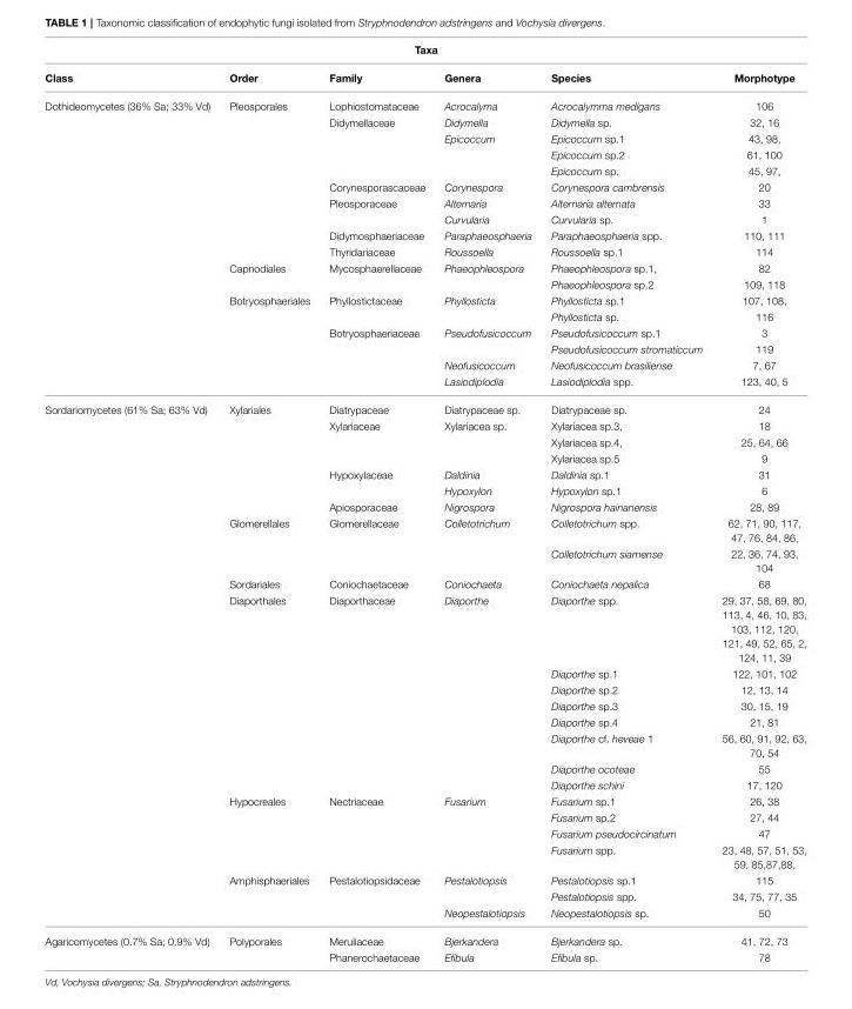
<table><thead><tr><td colspan="6">Taxa</td></tr><tr><td>Class</td><td>Order</td><td>Family</td><td>Genera</td><td>Species</td><td>Morphotype</td></tr></thead><tbody><tr><td rowspan="18">Dothideomycetes (36% Sa; 33% Vd)</td><td>Pleosporales</td><td>Lophiostomataceae</td><td>Acrocalyma</td><td>Acrocalymma medigans</td><td>106</td></tr><tr><td></td><td>Didymellaceae</td><td>Didymella</td><td>Didymella sp.</td><td>32, 16</td></tr><tr><td></td><td></td><td>Epicoccum</td><td>Epicoccum sp.1</td><td>43, 98,</td></tr><tr><td></td><td></td><td></td><td>Epicoccum sp.2</td><td>61, 100</td></tr><tr><td></td><td></td><td></td><td>Epicoccum sp.</td><td>45, 97,</td></tr><tr><td></td><td>Corynesporascaceae</td><td>Corynespora</td><td>Corynespora cambrensis</td><td>20</td></tr><tr><td></td><td>Pleosporaceae</td><td>Alternaria</td><td>Alternaria alternata</td><td>33</td></tr><tr><td></td><td></td><td>Curvularia</td><td>Curvularia sp.</td><td>1</td></tr><tr><td></td><td>Didymosphaeriaceae</td><td>Paraphaeosphaeria</td><td>Paraphaeosphaeria spp.</td><td>110, 111</td></tr><tr><td></td><td>Thyridariaceae</td><td>Roussoella</td><td>Roussoella sp.1</td><td>114</td></tr><tr><td>Capnodiales</td><td>Mycosphaerellaceae</td><td>Phaeophleospora</td><td>Phaeophleospora sp.1,</td><td>82</td></tr><tr><td></td><td></td><td></td><td>Phaeophleospora sp.2</td><td>109, 118</td></tr><tr><td>Botryosphaeriales</td><td>Phyllostictaceae</td><td>Phyllosticta</td><td>Phyllosticta sp.1</td><td>107, 108,</td></tr><tr><td></td><td></td><td></td><td>Phyllosticta sp.</td><td>116</td></tr><tr><td></td><td>Botryosphaeriaceae</td><td>Pseudofusicoccum</td><td>Pseudofusicoccum sp.1</td><td>3</td></tr><tr><td></td><td></td><td></td><td>Pseudofusicoccum stromaticcum</td><td>119</td></tr><tr><td></td><td></td><td>Neofusicoccum</td><td>Neofusicoccum brasiliense</td><td>7, 67</td></tr><tr><td></td><td></td><td>Lasiodiplodia</td><td>Lasiodiplodia spp.</td><td>123, 40, 5</td></tr><tr><td rowspan="25">Sordariomycetes (61% Sa; 63% Vd)</td><td>Xylariales</td><td>Diatrypaceae</td><td>Diatrypaceae sp.</td><td>Diatrypaceae sp.</td><td>24</td></tr><tr><td></td><td>Xylariaceae</td><td>Xylariacea sp.</td><td>Xylariacea sp.3,</td><td>18</td></tr><tr><td></td><td></td><td></td><td>Xylariacea sp.4,</td><td>25, 64, 66</td></tr><tr><td></td><td></td><td></td><td>Xylariacea sp.5</td><td>9</td></tr><tr><td></td><td>Hypoxylaceae</td><td>Daldinia</td><td>Daldinia sp.1</td><td>31</td></tr><tr><td></td><td></td><td>Hypoxylon</td><td>Hypoxylon sp.1</td><td>6</td></tr><tr><td></td><td>Apiosporaceae</td><td>Nigrospora</td><td>Nigrospora hainanensis</td><td>28, 89</td></tr><tr><td>Glomerellales</td><td>Glomerellaceae</td><td>Colletotrichum</td><td>Colletotrichum spp.</td><td>62, 71, 90, 117, 47, 76, 84, 86,</td></tr><tr><td></td><td></td><td></td><td>Colletotrichum siamense</td><td>22, 36, 74, 93, 104</td></tr><tr><td>Sordariales</td><td>Coniochaetaceae</td><td>Coniochaeta</td><td>Coniochaeta nepalica</td><td>68</td></tr><tr><td>Diaporthales</td><td>Diaporthaceae</td><td>Diaporthe</td><td>Diaporthe spp.</td><td>29, 37, 58, 69, 80, 113, 4, 46, 10, 83, 103, 112, 120, 121, 49, 52, 65, 2, 124, 11, 39</td></tr><tr><td></td><td></td><td></td><td>Diaporthe sp.1</td><td>122, 101, 102</td></tr><tr><td></td><td></td><td></td><td>Diaporthe sp.2</td><td>12, 13, 14</td></tr><tr><td></td><td></td><td></td><td>Diaporthe sp.3</td><td>30, 15, 19</td></tr><tr><td></td><td></td><td></td><td>Diaporthe sp.4</td><td>21, 81</td></tr><tr><td></td><td></td><td></td><td>Diaporthe cf. heveae 1</td><td>56, 60, 91, 92, 63, 70, 54</td></tr><tr><td></td><td></td><td></td><td>Diaporthe ocoteae</td><td>55</td></tr><tr><td></td><td></td><td></td><td>Diaporthe schini</td><td>17, 120</td></tr><tr><td>Hypocreales</td><td>Nectriaceae</td><td>Fusarium</td><td>Fusarium sp.1</td><td>26, 38</td></tr><tr><td></td><td></td><td></td><td>Fusarium sp.2</td><td>27, 44</td></tr><tr><td></td><td></td><td></td><td>Fusarium pseudocircinatum</td><td>47</td></tr><tr><td></td><td></td><td></td><td>Fusarium spp.</td><td>23, 48, 57, 51, 53, 59, 85,87,88,</td></tr><tr><td>Amphisphaeriales</td><td>Pestalotiopsidaceae</td><td>Pestalotiopsis</td><td>Pestalotiopsis sp.1</td><td>115</td></tr><tr><td></td><td></td><td></td><td>Pestalotiopsis spp.</td><td>34, 75, 77, 35</td></tr><tr><td></td><td></td><td>Neopestalotiopsis</td><td>Neopestalotiopsis sp.</td><td>50</td></tr><tr><td rowspan="2">Agaricomycetes (0.7% Sa; 0.9% Vd)</td><td>Polyporales</td><td>Meruliaceae</td><td>Bjerkandera</td><td>Bjerkandera sp.</td><td>41, 72, 73</td></tr><tr><td></td><td>Phanerochaetaceae</td><td>Efibula</td><td>Efibula sp.</td><td>78</td></tr></tbody></table>